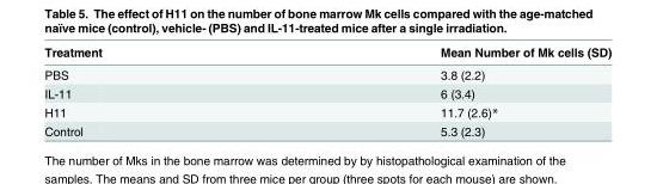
<table><thead><tr><td>Treatment</td><td>Mean Number of Mk cells (SD)</td></tr></thead><tbody><tr><td>PBS</td><td>3.8 (2.2)</td></tr><tr><td>IL-11</td><td>6 (3.4)</td></tr><tr><td>H11</td><td>11.7 (2.6)*</td></tr><tr><td>Control</td><td>5.3 (2.3)</td></tr></tbody></table>